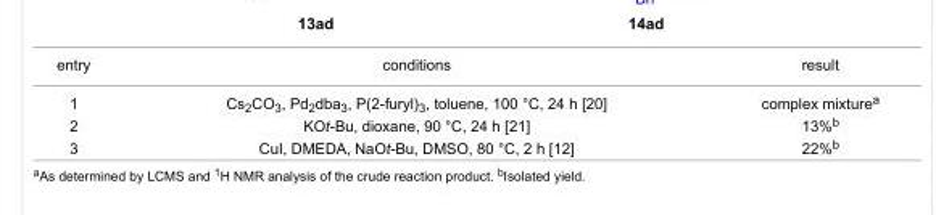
<table><tbody><tr><td>entry</td><td>conditions</td><td>result</td></tr><tr><td>1</td><td>Cs<sub>2</sub>CO<sub>3</sub>, Pd<sub>2</sub>dba<sub>3</sub>, P(2-furyl)<sub>3</sub>, toluene, 100 °C, 24 h [20]</td><td>complex mixture<sup>a</sup></td></tr><tr><td>2</td><td>KOt-Bu, dioxane, 90 °C, 24 h [21]</td><td>13%<sup>b</sup></td></tr><tr><td>3</td><td>CuI, DMEDA, NaOt-Bu, DMSO, 80 °C, 2 h [12]</td><td>22%<sup>b</sup></td></tr></tbody></table>